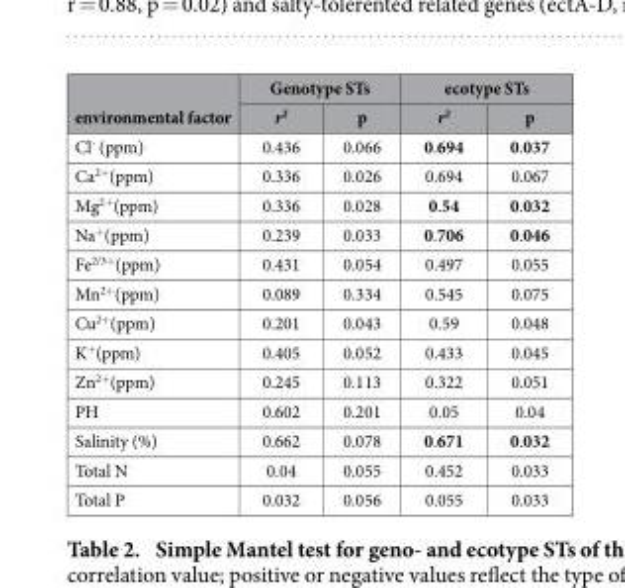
<table><thead><tr><td rowspan="2">environmental factor</td><td colspan="2">Genotype STs</td><td colspan="2">ecotype STs</td></tr><tr><td>r<sup>2</sup></td><td>p</td><td>r<sup>2</sup></td><td>p</td></tr></thead><tbody><tr><td>Cl<sup>-</sup> (ppm)</td><td>0.436</td><td>0.066</td><td>0.694</td><td>0.037</td></tr><tr><td>Ca<sup>2+</sup>(ppm)</td><td>0.336</td><td>0.026</td><td>0.694</td><td>0.067</td></tr><tr><td>Mg<sup>2+</sup>(ppm)</td><td>0.336</td><td>0.028</td><td>0.54</td><td>0.032</td></tr><tr><td>Na<sup>+</sup>(ppm)</td><td>0.239</td><td>0.033</td><td>0.706</td><td>0.046</td></tr><tr><td>Fe<sup>2/3+</sup>(ppm)</td><td>0.431</td><td>0.054</td><td>0.497</td><td>0.055</td></tr><tr><td>Mn<sup>2+</sup>(ppm)</td><td>0.089</td><td>0.334</td><td>0.545</td><td>0.075</td></tr><tr><td>Cu<sup>2+</sup>(ppm)</td><td>0.201</td><td>0.043</td><td>0.59</td><td>0.048</td></tr><tr><td>K<sup>+</sup>(ppm)</td><td>0.405</td><td>0.052</td><td>0.433</td><td>0.045</td></tr><tr><td>Zn<sup>2+</sup>(ppm)</td><td>0.245</td><td>0.113</td><td>0.322</td><td>0.051</td></tr><tr><td>PH</td><td>0.602</td><td>0.201</td><td>0.05</td><td>0.04</td></tr><tr><td>Salinity (%)</td><td>0.662</td><td>0.078</td><td>0.671</td><td>0.032</td></tr><tr><td>Total N</td><td>0.04</td><td>0.055</td><td>0.452</td><td>0.033</td></tr><tr><td>Total P</td><td>0.032</td><td>0.056</td><td>0.055</td><td>0.033</td></tr></tbody></table>